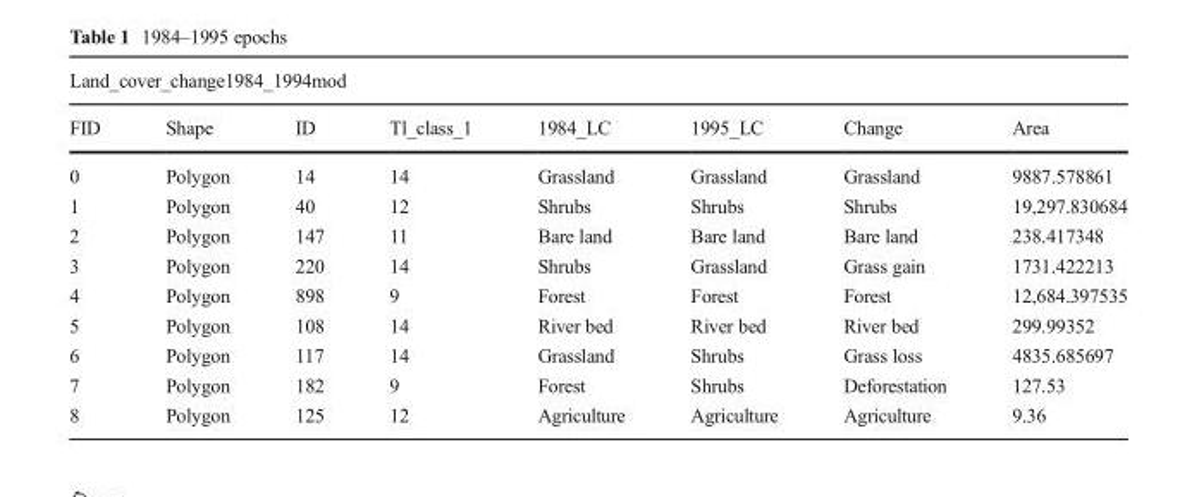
<table><thead><tr><td colspan="8">Land_cover_change1984_1994mod</td></tr><tr><td>FID</td><td>Shape</td><td>ID</td><td>Tl_class_1</td><td>1984_LC</td><td>1995_LC</td><td>Change</td><td>Area</td></tr></thead><tbody><tr><td>0</td><td>Polygon</td><td>14</td><td>14</td><td>Grassland</td><td>Grassland</td><td>Grassland</td><td>9887.578861</td></tr><tr><td>1</td><td>Polygon</td><td>40</td><td>12</td><td>Shrubs</td><td>Shrubs</td><td>Shrubs</td><td>19,297.830684</td></tr><tr><td>2</td><td>Polygon</td><td>147</td><td>11</td><td>Bare land</td><td>Bare land</td><td>Bare land</td><td>238.417348</td></tr><tr><td>3</td><td>Polygon</td><td>220</td><td>14</td><td>Shrubs</td><td>Grassland</td><td>Grass gain</td><td>1731.422213</td></tr><tr><td>4</td><td>Polygon</td><td>898</td><td>9</td><td>Forest</td><td>Forest</td><td>Forest</td><td>12,684.397535</td></tr><tr><td>5</td><td>Polygon</td><td>108</td><td>14</td><td>River bed</td><td>River bed</td><td>River bed</td><td>299.99352</td></tr><tr><td>6</td><td>Polygon</td><td>117</td><td>14</td><td>Grassland</td><td>Shrubs</td><td>Grass loss</td><td>4835.685697</td></tr><tr><td>7</td><td>Polygon</td><td>182</td><td>9</td><td>Forest</td><td>Shrubs</td><td>Deforestation</td><td>127.53</td></tr><tr><td>8</td><td>Polygon</td><td>125</td><td>12</td><td>Agriculture</td><td>Agriculture</td><td>Agriculture</td><td>9.36</td></tr></tbody></table>